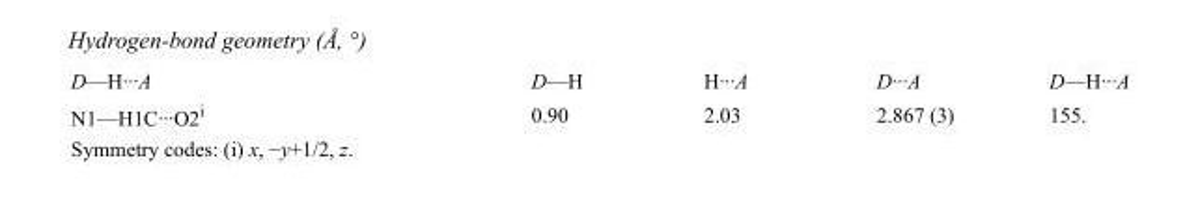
<table><tbody><tr><td>D—H···A</td><td>D—H</td><td>H···A</td><td>D···A</td><td>D—H···A</td></tr><tr><td>N1—H1C···O2<sup>i</sup></td><td>0.90</td><td>2.03</td><td>2.867 (3)</td><td>155.</td></tr></tbody></table>